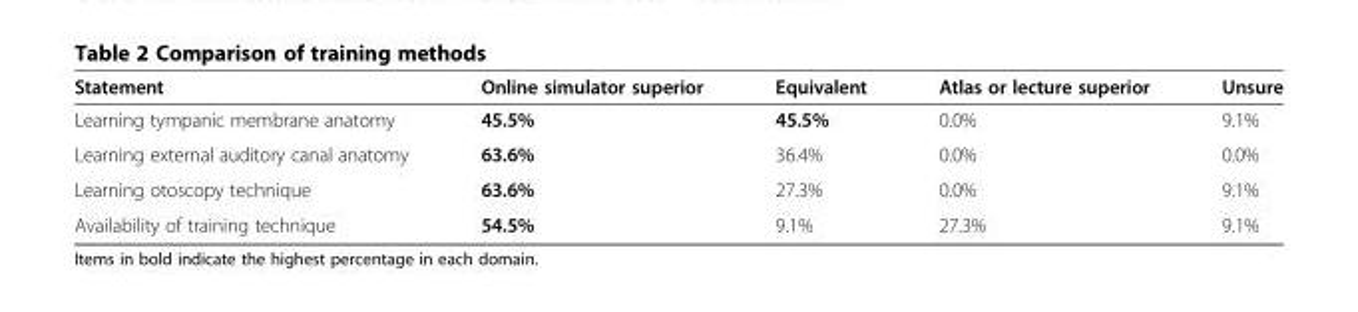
<table><thead><tr><td>Statement</td><td>Online simulator superior</td><td>Equivalent</td><td>Atlas or lecture superior</td><td>Unsure</td></tr></thead><tbody><tr><td>Learning tympanic membrane anatomy</td><td>45.5%</td><td>45.5%</td><td>0.0%</td><td>9.1%</td></tr><tr><td>Learning external auditory canal anatomy</td><td>63.6%</td><td>36.4%</td><td>0.0%</td><td>0.0%</td></tr><tr><td>Learning otoscopy technique</td><td>63.6%</td><td>27.3%</td><td>0.0%</td><td>9.1%</td></tr><tr><td>Availability of training technique</td><td>54.5%</td><td>9.1%</td><td>27.3%</td><td>9.1%</td></tr></tbody></table>